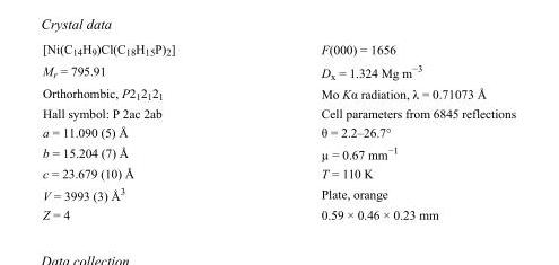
<table><tbody><tr><td>[Ni(C<sub>14</sub>H<sub>9</sub>)Cl(C<sub>18</sub>H<sub>15</sub>P)<sub>2</sub>]</td><td>F(000) = 1656</td></tr><tr><td>M<sub>r</sub> = 795.91</td><td>D<sub>x</sub> = 1.324 Mg m<sup>−3</sup></td></tr><tr><td>Orthorhombic, P2<sub>1</sub>2<sub>1</sub>2<sub>1</sub></td><td>Mo Kα radiation, λ = 0.71073 Å</td></tr><tr><td>Hall symbol: P 2ac 2ab</td><td>Cell parameters from 6845 reflections</td></tr><tr><td>a = 11.090 (5) Å</td><td>θ = 2.2–26.7°</td></tr><tr><td>b = 15.204 (7) Å</td><td>µ = 0.67 mm<sup>−1</sup></td></tr><tr><td>c = 23.679 (10) Å</td><td>T = 110 K</td></tr><tr><td>V = 3993 (3) Å<sup>3</sup></td><td>Plate, orange</td></tr><tr><td>Z = 4</td><td>0.59 × 0.46 × 0.23 mm</td></tr></tbody></table>